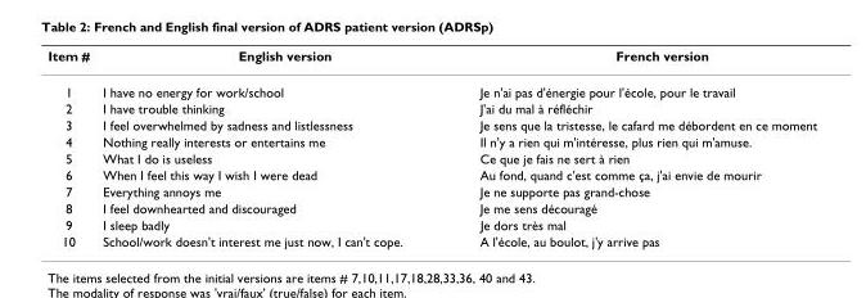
<table><thead><tr><td>Item #</td><td>English version</td><td>French version</td></tr></thead><tbody><tr><td>1</td><td>I have no energy for work/school</td><td>Je n&#x27;ai pas d&#x27;énergie pour l&#x27;école, pour le travail</td></tr><tr><td>2</td><td>I have trouble thinking</td><td>J&#x27;ai du mal à réfléchir</td></tr><tr><td>3</td><td>I feel overwhelmed by sadness and listlessness</td><td>Je sens que la tristesse, le cafard me débordent en ce moment</td></tr><tr><td>4</td><td>Nothing really interests or entertains me</td><td>Il n&#x27;y a rien qui m&#x27;intéresse, plus rien qui m&#x27;amuse.</td></tr><tr><td>5</td><td>What I do is useless</td><td>Ce que je fais ne sert à rien</td></tr><tr><td>6</td><td>When I feel this way I wish I were dead</td><td>Au fond, quand c&#x27;est comme ça, j&#x27;ai envie de mourir</td></tr><tr><td>7</td><td>Everything annoys me</td><td>Je ne supporte pas grand-chose</td></tr><tr><td>8</td><td>I feel downhearted and discouraged</td><td>Je me sens découragé</td></tr><tr><td>9</td><td>I sleep badly</td><td>Je dors très mal</td></tr><tr><td>10</td><td>School/work doesn&#x27;t interest me just now, I can&#x27;t cope.</td><td>A l&#x27;école, au boulot, j&#x27;y arrive pas</td></tr></tbody></table>